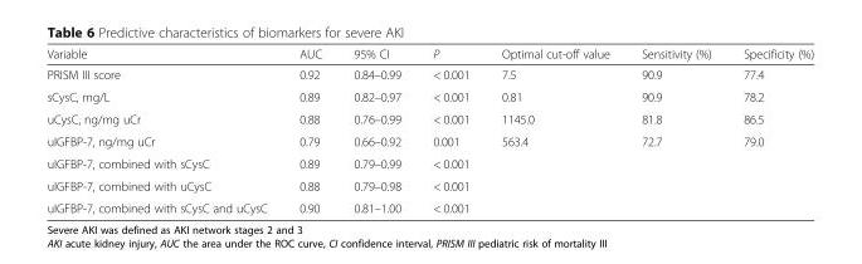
<table><thead><tr><td>Variable</td><td>AUC</td><td>95% CI</td><td>P</td><td>Optimal cut-off value</td><td>Sensitivity (%)</td><td>Specificity (%)</td></tr></thead><tbody><tr><td>PRISM III score</td><td>0.92</td><td>0.84–0.99</td><td>&lt; 0.001</td><td>7.5</td><td>90.9</td><td>77.4</td></tr><tr><td>sCysC, mg/L</td><td>0.89</td><td>0.82–0.97</td><td>&lt; 0.001</td><td>0.81</td><td>90.9</td><td>78.2</td></tr><tr><td>uCysC, ng/mg uCr</td><td>0.88</td><td>0.76–0.99</td><td>&lt; 0.001</td><td>1145.0</td><td>81.8</td><td>86.5</td></tr><tr><td>uIGFBP-7, ng/mg uCr</td><td>0.79</td><td>0.66–0.92</td><td>0.001</td><td>563.4</td><td>72.7</td><td>79.0</td></tr><tr><td>uIGFBP-7, combined with sCysC</td><td>0.89</td><td>0.79–0.99</td><td>&lt; 0.001</td><td></td><td></td><td></td></tr><tr><td>uIGFBP-7, combined with uCysC</td><td>0.88</td><td>0.79–0.98</td><td>&lt; 0.001</td><td></td><td></td><td></td></tr><tr><td>uIGFBP-7, combined with sCysC and uCysC</td><td>0.90</td><td>0.81–1.00</td><td>&lt; 0.001</td><td></td><td></td><td></td></tr></tbody></table>